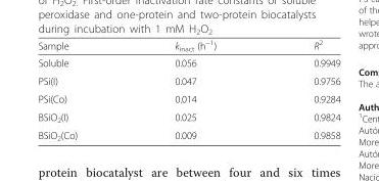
<table><thead><tr><td>Sample</td><td>k<sub>inact</sub> (h<sup>−1</sup>)</td><td>R<sup>2</sup></td></tr></thead><tbody><tr><td>Soluble</td><td>0.056</td><td>0.9949</td></tr><tr><td>PSi(I)</td><td>0.047</td><td>0.9756</td></tr><tr><td>PSi(Co)</td><td>0.014</td><td>0.9284</td></tr><tr><td>BSiO<sub>2</sub>(I)</td><td>0.025</td><td>0.9824</td></tr><tr><td>BSiO<sub>2</sub>(Co)</td><td>0.009</td><td>0.9858</td></tr></tbody></table>